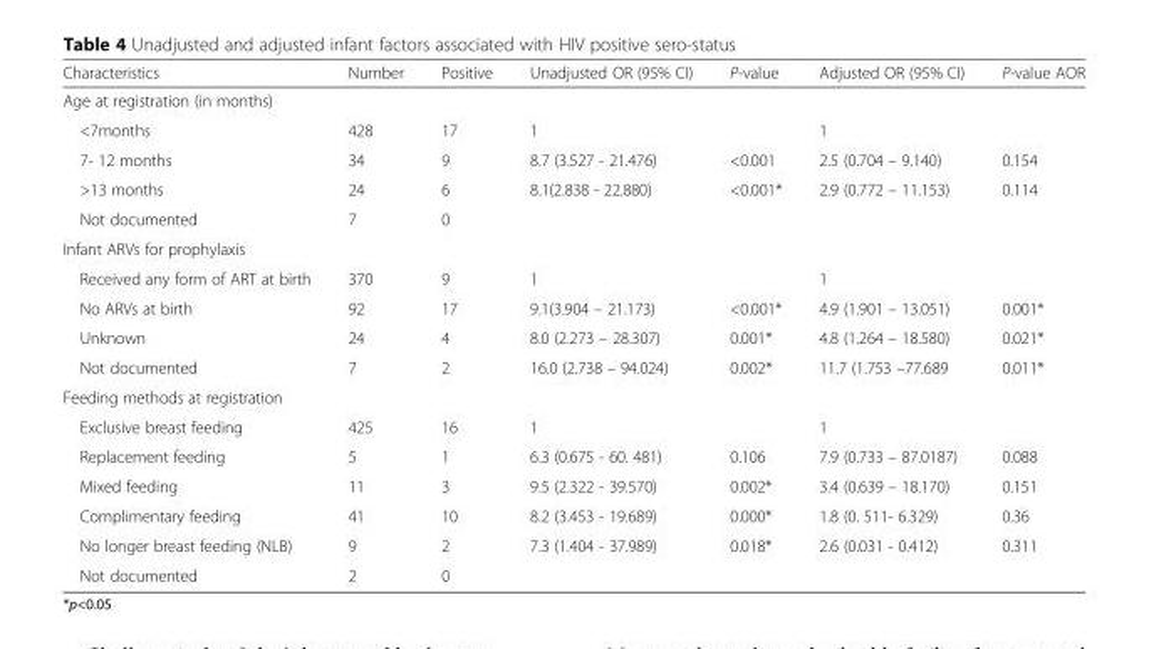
<table><thead><tr><td>Characteristics</td><td>Number</td><td>Positive</td><td>Unadjusted OR (95% CI)</td><td>P-value</td><td>Adjusted OR (95% CI)</td><td>P-value AOR</td></tr></thead><tbody><tr><td colspan="7">Age at registration (in months)</td></tr><tr><td>&lt;7months</td><td>428</td><td>17</td><td>1</td><td></td><td>1</td><td></td></tr><tr><td>7- 12 months</td><td>34</td><td>9</td><td>8.7 (3.527 - 21.476)</td><td>&lt;0.001</td><td>2.5 (0.704 – 9.140)</td><td>0.154</td></tr><tr><td>&gt;13 months</td><td>24</td><td>6</td><td>8.1(2.838 - 22.880)</td><td>&lt;0.001*</td><td>2.9 (0.772 – 11.153)</td><td>0.114</td></tr><tr><td>Not documented</td><td>7</td><td>0</td><td></td><td></td><td></td><td></td></tr><tr><td colspan="7">Infant ARVs for prophylaxis</td></tr><tr><td>Received any form of ART at birth</td><td>370</td><td>9</td><td>1</td><td></td><td>1</td><td></td></tr><tr><td>No ARVs at birth</td><td>92</td><td>17</td><td>9.1(3.904 – 21.173)</td><td>&lt;0.001*</td><td>4.9 (1.901 – 13.051)</td><td>0.001*</td></tr><tr><td>Unknown</td><td>24</td><td>4</td><td>8.0 (2.273 – 28.307)</td><td>0.001*</td><td>4.8 (1.264 – 18.580)</td><td>0.021*</td></tr><tr><td>Not documented</td><td>7</td><td>2</td><td>16.0 (2.738 – 94.024)</td><td>0.002*</td><td>11.7 (1.753 –77.689</td><td>0.011*</td></tr><tr><td colspan="7">Feeding methods at registration</td></tr><tr><td>Exclusive breast feeding</td><td>425</td><td>16</td><td>1</td><td></td><td>1</td><td></td></tr><tr><td>Replacement feeding</td><td>5</td><td>1</td><td>6.3 (0.675 - 60. 481)</td><td>0.106</td><td>7.9 (0.733 – 87.0187)</td><td>0.088</td></tr><tr><td>Mixed feeding</td><td>11</td><td>3</td><td>9.5 (2.322 - 39.570)</td><td>0.002*</td><td>3.4 (0.639 – 18.170)</td><td>0.151</td></tr><tr><td>Complimentary feeding</td><td>41</td><td>10</td><td>8.2 (3.453 - 19.689)</td><td>0.000*</td><td>1.8 (0. 511- 6.329)</td><td>0.36</td></tr><tr><td>No longer breast feeding (NLB)</td><td>9</td><td>2</td><td>7.3 (1.404 - 37.989)</td><td>0.018*</td><td>2.6 (0.031 - 0.412)</td><td>0.311</td></tr><tr><td>Not documented</td><td>2</td><td>0</td><td></td><td></td><td></td><td></td></tr></tbody></table>